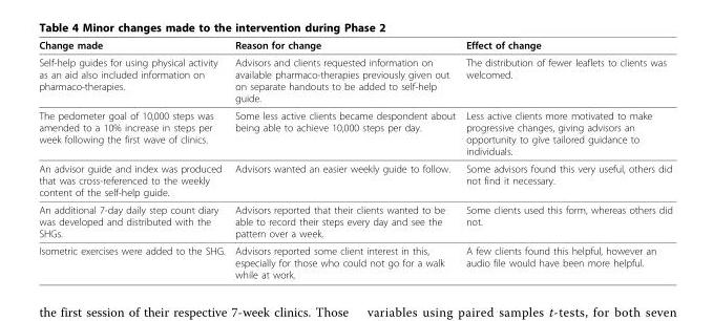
<table><thead><tr><td>Change made</td><td>Reason for change</td><td>Effect of change</td></tr></thead><tbody><tr><td>Self-help guides for using physical activity as an aid also included information on pharmaco-therapies.</td><td>Advisors and clients requested information on available pharmaco-therapies previously given out on separate handouts to be added to self-help guide.</td><td>The distribution of fewer leaflets to clients was welcomed.</td></tr><tr><td>The pedometer goal of 10,000 steps was amended to a 10% increase in steps per week following the first wave of clinics.</td><td>Some less active clients became despondent about being able to achieve 10,000 steps per day.</td><td>Less active clients more motivated to make progressive changes, giving advisors an opportunity to give tailored guidance to individuals.</td></tr><tr><td>An advisor guide and index was produced that was cross-referenced to the weekly content of the self-help guide.</td><td>Advisors wanted an easier weekly guide to follow.</td><td>Some advisors found this very useful, others did not find it necessary.</td></tr><tr><td>An additional 7-day daily step count diary was developed and distributed with the SHGs.</td><td>Advisors reported that their clients wanted to be able to record their steps every day and see the pattern over a week.</td><td>Some clients used this form, whereas others did not.</td></tr><tr><td>Isometric exercises were added to the SHG.</td><td>Advisors reported some client interest in this, especially for those who could not go for a walk while at work.</td><td>A few clients found this helpful, however an audio file would have been more helpful.</td></tr></tbody></table>